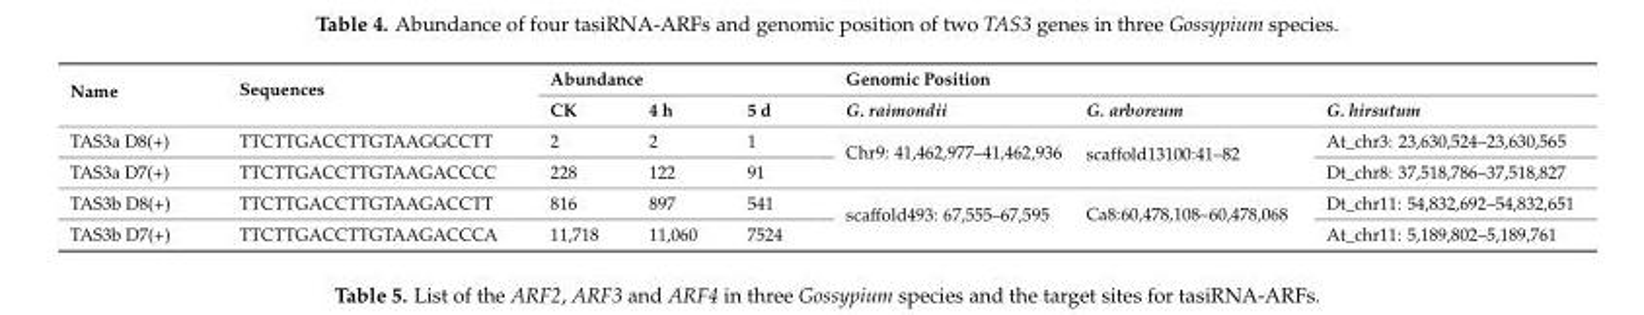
<table><thead><tr><td rowspan="2">Name</td><td rowspan="2">Sequences</td><td colspan="3">Abundance</td><td colspan="3">Genomic Position</td></tr><tr><td>CK</td><td>4 h</td><td>5 d</td><td>G. raimondii</td><td>G. arboreum</td><td>G. hirsutum</td></tr></thead><tbody><tr><td>TAS3a D8(+)</td><td>TTCTTGACCTTGTAAGGCCTT</td><td>2</td><td>2</td><td>1</td><td rowspan="2">Chr9: 41,462,977–41,462,936</td><td rowspan="2">scaffold13100:41–82</td><td>At_chr3: 23,630,524–23,630,565</td></tr><tr><td>TAS3a D7(+)</td><td>TTCTTGACCTTGTAAGACCCC</td><td>228</td><td>122</td><td>91</td><td>Dt_chr8: 37,518,786–37,518,827</td></tr><tr><td>TAS3b D8(+)</td><td>TTCTTGACCTTGTAAGACCTT</td><td>816</td><td>897</td><td>541</td><td rowspan="2">scaffold493: 67,555–67,595</td><td rowspan="2">Ca8:60,478,108–60,478,068</td><td>Dt_chr11: 54,832,692–54,832,651</td></tr><tr><td>TAS3b D7(+)</td><td>TTCTTGACCTTGTAAGACCCA</td><td>11,718</td><td>11,060</td><td>7524</td><td>At_chr11: 5,189,802–5,189,761</td></tr></tbody></table>